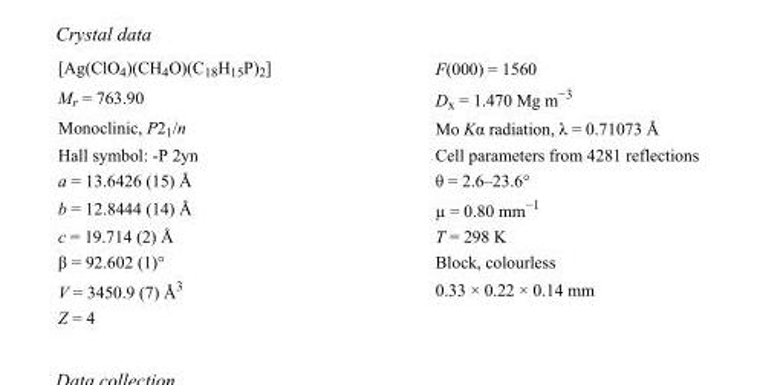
<table><tbody><tr><td>[Ag(ClO<sub>4</sub>)(CH<sub>4</sub>O)(C<sub>18</sub>H<sub>15</sub>P)<sub>2</sub>]</td><td>F(000) = 1560</td></tr><tr><td>M<sub>r</sub> = 763.90</td><td>D<sub>x</sub> = 1.470 Mg m<sup>−3</sup></td></tr><tr><td>Monoclinic, P2<sub>1</sub>/n</td><td>Mo Kα radiation, λ = 0.71073 Å</td></tr><tr><td>Hall symbol: -P 2yn</td><td>Cell parameters from 4281 reflections</td></tr><tr><td>a = 13.6426 (15) Å</td><td>θ = 2.6–23.6°</td></tr><tr><td>b = 12.8444 (14) Å</td><td>µ = 0.80 mm<sup>−1</sup></td></tr><tr><td>c = 19.714 (2) Å</td><td>T = 298 K</td></tr><tr><td>β = 92.602 (1)°</td><td>Block, colourless</td></tr><tr><td>V = 3450.9 (7) Å<sup>3</sup></td><td>0.33 × 0.22 × 0.14 mm</td></tr><tr><td>Z = 4</td><td></td></tr></tbody></table>